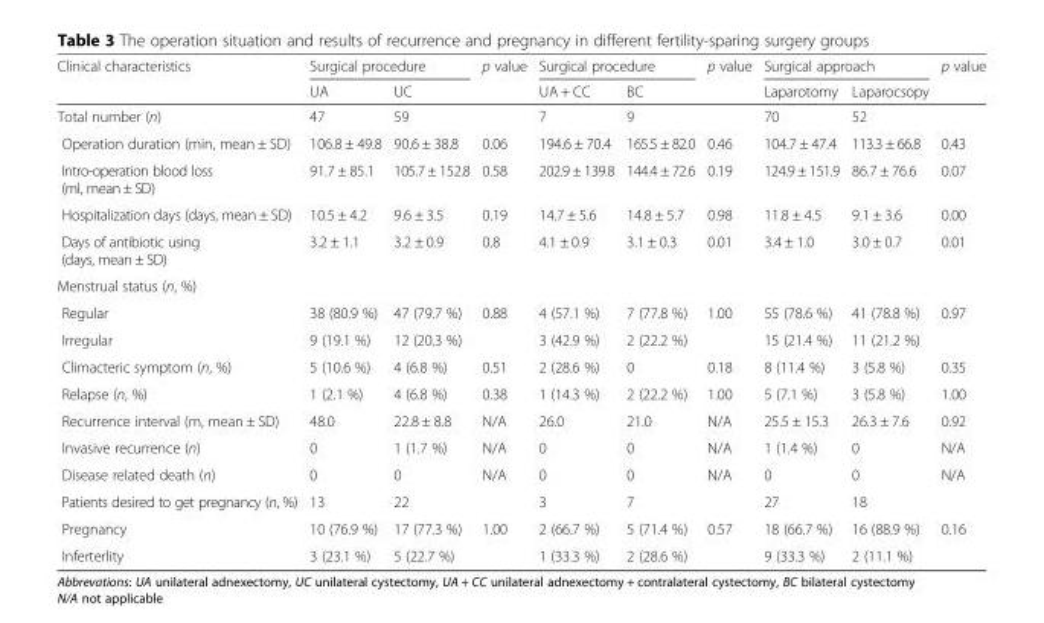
<table><thead><tr><td rowspan="2">Clinical characteristics</td><td colspan="2">Surgical procedure</td><td rowspan="2">p value</td><td colspan="2">Surgical procedure</td><td rowspan="2">p value</td><td colspan="2">Surgical approach</td><td rowspan="2">p value</td></tr><tr><td>UA</td><td>UC</td><td>UA + CC</td><td>BC</td><td>Laparotomy</td><td>Laparocsopy</td></tr></thead><tbody><tr><td>Total number (n)</td><td>47</td><td>59</td><td></td><td>7</td><td>9</td><td></td><td>70</td><td>52</td><td></td></tr><tr><td>Operation duration (min, mean ± SD)</td><td>106.8 ± 49.8</td><td>90.6 ± 38.8</td><td>0.06</td><td>194.6 ± 70.4</td><td>165.5 ± 82.0</td><td>0.46</td><td>104.7 ± 47.4</td><td>113.3 ± 66.8</td><td>0.43</td></tr><tr><td>Intro-operation blood loss (ml, mean ± SD)</td><td>91.7 ± 85.1</td><td>105.7 ± 152.8</td><td>0.58</td><td>202.9 ± 139.8</td><td>144.4 ± 72.6</td><td>0.19</td><td>124.9 ± 151.9</td><td>86.7 ± 76.6</td><td>0.07</td></tr><tr><td>Hospitalization days (days, mean ± SD)</td><td>10.5 ± 4.2</td><td>9.6 ± 3.5</td><td>0.19</td><td>14.7 ± 5.6</td><td>14.8 ± 5.7</td><td>0.98</td><td>11.8 ± 4.5</td><td>9.1 ± 3.6</td><td>0.00</td></tr><tr><td>Days of antibiotic using (days, mean ± SD)</td><td>3.2 ± 1.1</td><td>3.2 ± 0.9</td><td>0.8</td><td>4.1 ± 0.9</td><td>3.1 ± 0.3</td><td>0.01</td><td>3.4 ± 1.0</td><td>3.0 ± 0.7</td><td>0.01</td></tr><tr><td colspan="10">Menstrual status (n, %)</td></tr><tr><td>Regular</td><td>38 (80.9 %)</td><td>47 (79.7 %)</td><td rowspan="2">0.88</td><td>4 (57.1 %)</td><td>7 (77.8 %)</td><td rowspan="2">1.00</td><td>55 (78.6 %)</td><td>41 (78.8 %)</td><td rowspan="2">0.97</td></tr><tr><td>Irregular</td><td>9 (19.1 %)</td><td>12 (20.3 %)</td><td>3 (42.9 %)</td><td>2 (22.2 %)</td><td>15 (21.4 %)</td><td>11 (21.2 %)</td></tr><tr><td>Climacteric symptom (n, %)</td><td>5 (10.6 %)</td><td>4 (6.8 %)</td><td>0.51</td><td>2 (28.6 %)</td><td>0</td><td>0.18</td><td>8 (11.4 %)</td><td>3 (5.8 %)</td><td>0.35</td></tr><tr><td>Relapse (n, %)</td><td>1 (2.1 %)</td><td>4 (6.8 %)</td><td>0.38</td><td>1 (14.3 %)</td><td>2 (22.2 %)</td><td>1.00</td><td>5 (7.1 %)</td><td>3 (5.8 %)</td><td>1.00</td></tr><tr><td>Recurrence interval (m, mean ± SD)</td><td>48.0</td><td>22.8 ± 8.8</td><td>N/A</td><td>26.0</td><td>21.0</td><td>N/A</td><td>25.5 ± 15.3</td><td>26.3 ± 7.6</td><td>0.92</td></tr><tr><td>Invasive recurrence (n)</td><td>0</td><td>1 (1.7 %)</td><td>N/A</td><td>0</td><td>0</td><td>N/A</td><td>1 (1.4 %)</td><td>0</td><td>N/A</td></tr><tr><td>Disease related death (n)</td><td>0</td><td>0</td><td>N/A</td><td>0</td><td>0</td><td>N/A</td><td>0</td><td>0</td><td>N/A</td></tr><tr><td>Patients desired to get pregnancy (n, %)</td><td>13</td><td>22</td><td></td><td>3</td><td>7</td><td></td><td>27</td><td>18</td><td></td></tr><tr><td>Pregnancy</td><td>10 (76.9 %)</td><td>17 (77.3 %)</td><td rowspan="2">1.00</td><td>2 (66.7 %)</td><td>5 (71.4 %)</td><td rowspan="2">0.57</td><td>18 (66.7 %)</td><td>16 (88.9 %)</td><td rowspan="2">0.16</td></tr><tr><td>Inferterlity</td><td>3 (23.1 %)</td><td>5 (22.7 %)</td><td>1 (33.3 %)</td><td>2 (28.6 %)</td><td>9 (33.3 %)</td><td>2 (11.1 %)</td></tr></tbody></table>